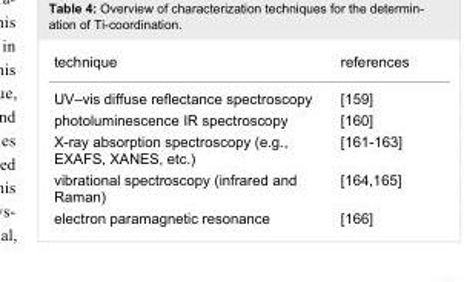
<table><tbody><tr><td>technique</td><td>references</td></tr><tr><td>UV–vis diffuse reflectance spectroscopy</td><td>[159]</td></tr><tr><td>photoluminescence IR spectroscopy</td><td>[160]</td></tr><tr><td>X-ray absorption spectroscopy (e.g., EXAFS, XANES, etc.)</td><td>[161-163]</td></tr><tr><td>vibrational spectroscopy (infrared and Raman)</td><td>[164–165]</td></tr><tr><td>electron paramagnetic resonance</td><td>[166]</td></tr></tbody></table>